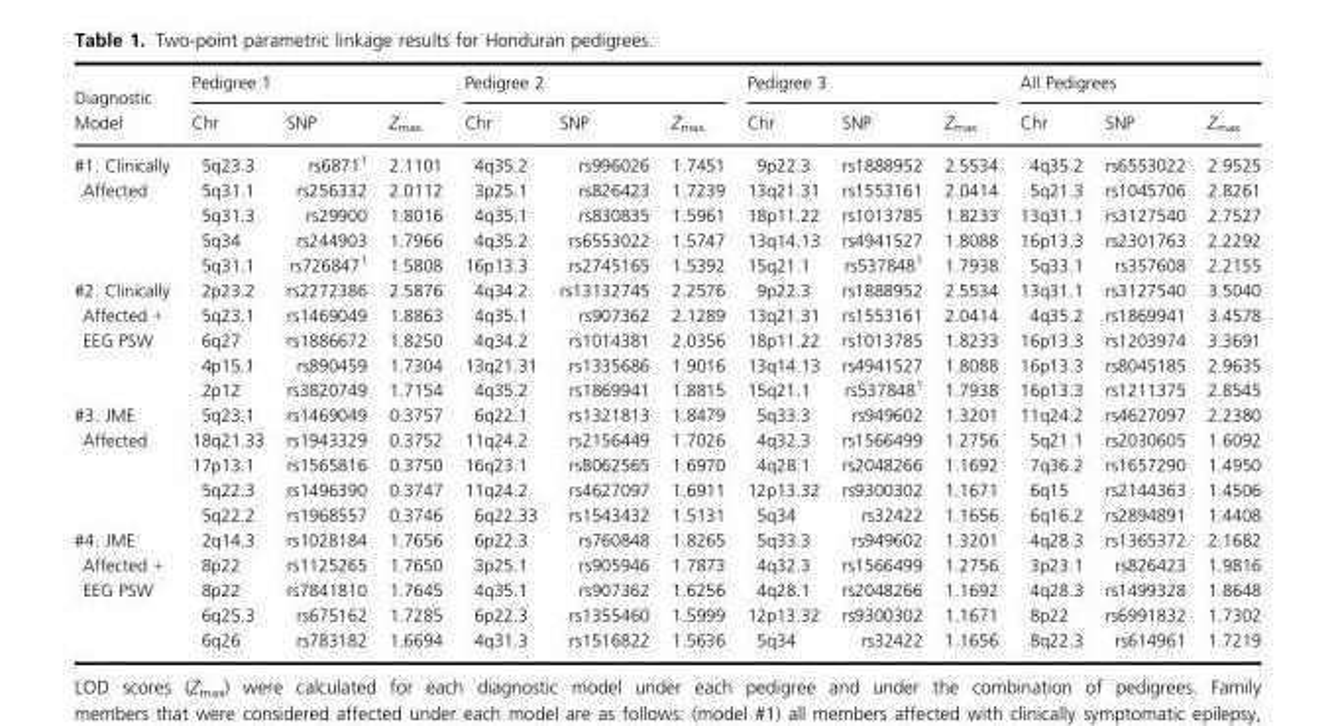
<table><thead><tr><td rowspan="2">Diagnostic Model</td><td colspan="3">Pedigree 1</td><td colspan="3">Pedigree 2</td><td colspan="3">Pedigree 3</td><td colspan="3">All Pedigrees</td></tr><tr><td>Chr</td><td>SNP</td><td>Z<sub>max</sub></td><td>Chr</td><td>SNP</td><td>Z<sub>max</sub></td><td>Chr</td><td>SNP</td><td>Z<sub>max</sub></td><td>Chr</td><td>SNP</td><td>Z<sub>max</sub></td></tr></thead><tbody><tr><td rowspan="5">#1. Clinically Affected</td><td>5q23.3</td><td>rs68711</td><td>2.1101</td><td>4q35.2</td><td>rs996026</td><td>1.7451</td><td>9p22.3</td><td>rs1888952</td><td>2.5534</td><td>4q35.2</td><td>rs6553022</td><td>2.9525</td></tr><tr><td>5q31.1</td><td>rs256332</td><td>2.0112</td><td>3p25.1</td><td>rs826423</td><td>1.7239</td><td>13q21.31</td><td>rs1553161</td><td>2.0414</td><td>5q21.3</td><td>rs1045706</td><td>2.8261</td></tr><tr><td>5q31.3</td><td>rs29900</td><td>1.8016</td><td>4q35.1</td><td>rs830835</td><td>1.5961</td><td>18p11.22</td><td>rs1013785</td><td>1.8233</td><td>13q31.1</td><td>rs3127540</td><td>2.7527</td></tr><tr><td>5q34</td><td>rs244903</td><td>1.7966</td><td>4q35.2</td><td>rs6553022</td><td>1.5747</td><td>13q14.13</td><td>rs4941527</td><td>1.8088</td><td>16p13.3</td><td>rs2301763</td><td>2.2292</td></tr><tr><td>5q31.1</td><td>rs7268471</td><td>1.5808</td><td>16p13.3</td><td>rs2745165</td><td>1.5392</td><td>15q21.1</td><td>rs5378481</td><td>1.7938</td><td>5q33.1</td><td>rs357608</td><td>2.2155</td></tr><tr><td rowspan="5">#2. Clinically Affected + EEG PSW</td><td>2p23.2</td><td>rs2272386</td><td>2.5876</td><td>4q34.2</td><td>rs13132745</td><td>2.2576</td><td>9p22.3</td><td>rs1888952</td><td>2.5534</td><td>13q31.1</td><td>rs3127540</td><td>3.5040</td></tr><tr><td>5q23.1</td><td>rs1469049</td><td>1.8863</td><td>4q35.1</td><td>rs907362</td><td>2.1289</td><td>13q21.31</td><td>rs1553161</td><td>2.0414</td><td>4q35.2</td><td>rs1869941</td><td>3.4578</td></tr><tr><td>6q27</td><td>rs1886672</td><td>1.8250</td><td>4q34.2</td><td>rs1014381</td><td>2.0356</td><td>18p11.22</td><td>rs1013785</td><td>1.8233</td><td>16p13.3</td><td>rs1203974</td><td>3.3691</td></tr><tr><td>4p15.1</td><td>rs890459</td><td>1.7304</td><td>13q21.31</td><td>rs1335686</td><td>1.9016</td><td>13q14.13</td><td>rs4941527</td><td>1.8088</td><td>16p13.3</td><td>rs8045185</td><td>2.9635</td></tr><tr><td>2p12</td><td>rs3820749</td><td>1.7154</td><td>4q35.2</td><td>rs1869941</td><td>1.8815</td><td>15q21.1</td><td>rs5378481</td><td>1.7938</td><td>16p13.3</td><td>rs1211375</td><td>2.8545</td></tr><tr><td rowspan="5">#3. JME Affected</td><td>5q23.1</td><td>rs1469049</td><td>0.3757</td><td>6q22.1</td><td>rs1321813</td><td>1.8479</td><td>5q33.3</td><td>rs949602</td><td>1.3201</td><td>11q24.2</td><td>rs4627097</td><td>2.2380</td></tr><tr><td>18q21.33</td><td>rs1943329</td><td>0.3752</td><td>11q24.2</td><td>rs2156449</td><td>1.7026</td><td>4q32.3</td><td>rs1566499</td><td>1.2756</td><td>5q21.1</td><td>rs2030605</td><td>1.6092</td></tr><tr><td>17p13.1</td><td>rs1565816</td><td>0.3750</td><td>16q23.1</td><td>rs8062565</td><td>1.6970</td><td>4q28.1</td><td>rs2048266</td><td>1.1692</td><td>7q36.2</td><td>rs1657290</td><td>1.4950</td></tr><tr><td>5q22.3</td><td>rs1496390</td><td>0.3747</td><td>11q24.2</td><td>rs4627097</td><td>1.6911</td><td>12p13.32</td><td>rs9300302</td><td>1.1671</td><td>6q15</td><td>rs2144363</td><td>1.4506</td></tr><tr><td>5q22.2</td><td>rs1968557</td><td>0.3746</td><td>6q22.33</td><td>rs1543432</td><td>1.5131</td><td>5q34</td><td>rs32422</td><td>1.1656</td><td>6q16.2</td><td>rs2894891</td><td>1.4408</td></tr><tr><td rowspan="5">#4. JME Affected + EEG PSW</td><td>2q14.3</td><td>rs1028184</td><td>1.7656</td><td>6p22.3</td><td>rs760848</td><td>1.8265</td><td>5q33.3</td><td>rs949602</td><td>1.3201</td><td>4q28.3</td><td>rs1365372</td><td>2.1682</td></tr><tr><td>8p22</td><td>rs1125265</td><td>1.7650</td><td>3p25.1</td><td>rs905946</td><td>1.7873</td><td>4q32.3</td><td>rs1566499</td><td>1.2756</td><td>3p23.1</td><td>rs826423</td><td>1.9816</td></tr><tr><td>8p22</td><td>rs7841810</td><td>1.7645</td><td>4q35.1</td><td>rs907362</td><td>1.6256</td><td>4q28.1</td><td>rs2048266</td><td>1.1692</td><td>4q28.3</td><td>rs1499328</td><td>1.8648</td></tr><tr><td>6q25.3</td><td>rs675162</td><td>1.7285</td><td>6p22.3</td><td>rs1355460</td><td>1.5999</td><td>12p13.32</td><td>rs9300302</td><td>1.1671</td><td>8p22</td><td>rs6991832</td><td>1.7302</td></tr><tr><td>6q26</td><td>rs783182</td><td>1.6694</td><td>4q31.3</td><td>rs1516822</td><td>1.5636</td><td>5q34</td><td>rs32422</td><td>1.1656</td><td>8q22.3</td><td>rs614961</td><td>1.7219</td></tr></tbody></table>